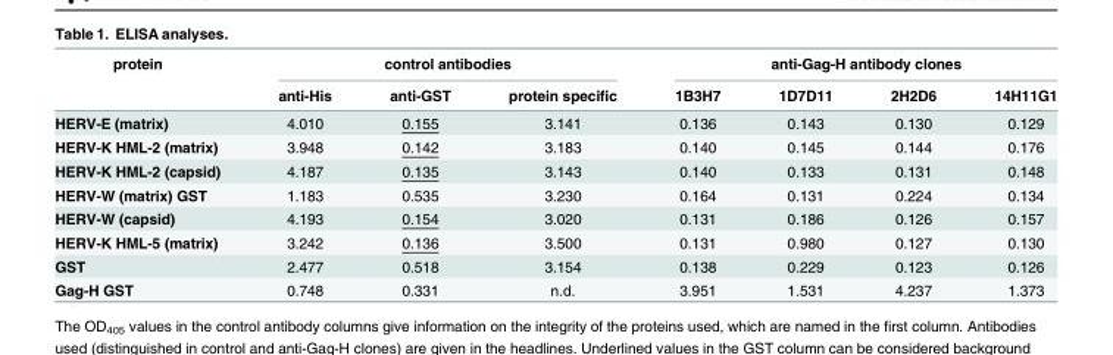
<table><thead><tr><td rowspan="2">protein</td><td colspan="3">control antibodies</td><td colspan="4">anti-Gag-H antibody clones</td></tr><tr><td>anti-His</td><td>anti-GST</td><td>protein specific</td><td>1B3H7</td><td>1D7D11</td><td>2H2D6</td><td>14H11G1</td></tr></thead><tbody><tr><td>HERV-E (matrix)</td><td>4.010</td><td>0.155</td><td>3.141</td><td>0.136</td><td>0.143</td><td>0.130</td><td>0.129</td></tr><tr><td>HERV-K HML-2 (matrix)</td><td>3.948</td><td>0.142</td><td>3.183</td><td>0.140</td><td>0.145</td><td>0.144</td><td>0.176</td></tr><tr><td>HERV-K HML-2 (capsid)</td><td>4.187</td><td>0.135</td><td>3.143</td><td>0.140</td><td>0.133</td><td>0.131</td><td>0.148</td></tr><tr><td>HERV-W (matrix) GST</td><td>1.183</td><td>0.535</td><td>3.230</td><td>0.164</td><td>0.131</td><td>0.224</td><td>0.134</td></tr><tr><td>HERV-W (capsid)</td><td>4.193</td><td>0.154</td><td>3.020</td><td>0.131</td><td>0.186</td><td>0.126</td><td>0.157</td></tr><tr><td>HERV-K HML-5 (matrix)</td><td>3.242</td><td>0.136</td><td>3.500</td><td>0.131</td><td>0.980</td><td>0.127</td><td>0.130</td></tr><tr><td>GST</td><td>2.477</td><td>0.518</td><td>3.154</td><td>0.138</td><td>0.229</td><td>0.123</td><td>0.126</td></tr><tr><td>Gag-H GST</td><td>0.748</td><td>0.331</td><td>n.d.</td><td>3.951</td><td>1.531</td><td>4.237</td><td>1.373</td></tr></tbody></table>